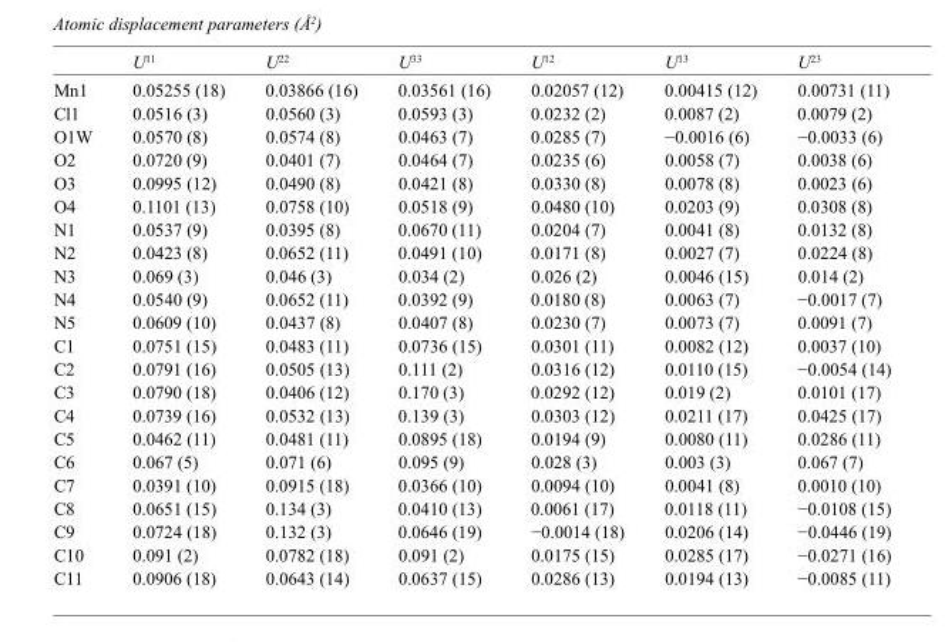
<table><thead><tr><td></td><td>U<sup>11</sup></td><td>U<sup>22</sup></td><td>U<sup>33</sup></td><td>U<sup>12</sup></td><td>U<sup>13</sup></td><td>U<sup>23</sup></td></tr></thead><tbody><tr><td>Mn1</td><td>0.05255 (18)</td><td>0.03866 (16)</td><td>0.03561 (16)</td><td>0.02057 (12)</td><td>0.00415 (12)</td><td>0.00731 (11)</td></tr><tr><td>Cl1</td><td>0.0516 (3)</td><td>0.0560 (3)</td><td>0.0593 (3)</td><td>0.0232 (2)</td><td>0.0087 (2)</td><td>0.0079 (2)</td></tr><tr><td>O1W</td><td>0.0570 (8)</td><td>0.0574 (8)</td><td>0.0463 (7)</td><td>0.0285 (7)</td><td>−0.0016 (6)</td><td>−0.0033 (6)</td></tr><tr><td>O2</td><td>0.0720 (9)</td><td>0.0401 (7)</td><td>0.0464 (7)</td><td>0.0235 (6)</td><td>0.0058 (7)</td><td>0.0038 (6)</td></tr><tr><td>O3</td><td>0.0995 (12)</td><td>0.0490 (8)</td><td>0.0421 (8)</td><td>0.0330 (8)</td><td>0.0078 (8)</td><td>0.0023 (6)</td></tr><tr><td>O4</td><td>0.1101 (13)</td><td>0.0758 (10)</td><td>0.0518 (9)</td><td>0.0480 (10)</td><td>0.0203 (9)</td><td>0.0308 (8)</td></tr><tr><td>N1</td><td>0.0537 (9)</td><td>0.0395 (8)</td><td>0.0670 (11)</td><td>0.0204 (7)</td><td>0.0041 (8)</td><td>0.0132 (8)</td></tr><tr><td>N2</td><td>0.0423 (8)</td><td>0.0652 (11)</td><td>0.0491 (10)</td><td>0.0171 (8)</td><td>0.0027 (7)</td><td>0.0224 (8)</td></tr><tr><td>N3</td><td>0.069 (3)</td><td>0.046 (3)</td><td>0.034 (2)</td><td>0.026 (2)</td><td>0.0046 (15)</td><td>0.014 (2)</td></tr><tr><td>N4</td><td>0.0540 (9)</td><td>0.0652 (11)</td><td>0.0392 (9)</td><td>0.0180 (8)</td><td>0.0063 (7)</td><td>−0.0017 (7)</td></tr><tr><td>N5</td><td>0.0609 (10)</td><td>0.0437 (8)</td><td>0.0407 (8)</td><td>0.0230 (7)</td><td>0.0073 (7)</td><td>0.0091 (7)</td></tr><tr><td>C1</td><td>0.0751 (15)</td><td>0.0483 (11)</td><td>0.0736 (15)</td><td>0.0301 (11)</td><td>0.0082 (12)</td><td>0.0037 (10)</td></tr><tr><td>C2</td><td>0.0791 (16)</td><td>0.0505 (13)</td><td>0.111 (2)</td><td>0.0316 (12)</td><td>0.0110 (15)</td><td>−0.0054 (14)</td></tr><tr><td>C3</td><td>0.0790 (18)</td><td>0.0406 (12)</td><td>0.170 (3)</td><td>0.0292 (12)</td><td>0.019 (2)</td><td>0.0101 (17)</td></tr><tr><td>C4</td><td>0.0739 (16)</td><td>0.0532 (13)</td><td>0.139 (3)</td><td>0.0303 (12)</td><td>0.0211 (17)</td><td>0.0425 (17)</td></tr><tr><td>C5</td><td>0.0462 (11)</td><td>0.0481 (11)</td><td>0.0895 (18)</td><td>0.0194 (9)</td><td>0.0080 (11)</td><td>0.0286 (11)</td></tr><tr><td>C6</td><td>0.067 (5)</td><td>0.071 (6)</td><td>0.095 (9)</td><td>0.028 (3)</td><td>0.003 (3)</td><td>0.067 (7)</td></tr><tr><td>C7</td><td>0.0391 (10)</td><td>0.0915 (18)</td><td>0.0366 (10)</td><td>0.0094 (10)</td><td>0.0041 (8)</td><td>0.0010 (10)</td></tr><tr><td>C8</td><td>0.0651 (15)</td><td>0.134 (3)</td><td>0.0410 (13)</td><td>0.0061 (17)</td><td>0.0118 (11)</td><td>−0.0108 (15)</td></tr><tr><td>C9</td><td>0.0724 (18)</td><td>0.132 (3)</td><td>0.0646 (19)</td><td>−0.0014 (18)</td><td>0.0206 (14)</td><td>−0.0446 (19)</td></tr><tr><td>C10</td><td>0.091 (2)</td><td>0.0782 (18)</td><td>0.091 (2)</td><td>0.0175 (15)</td><td>0.0285 (17)</td><td>−0.0271 (16)</td></tr><tr><td>C11</td><td>0.0906 (18)</td><td>0.0643 (14)</td><td>0.0637 (15)</td><td>0.0286 (13)</td><td>0.0194 (13)</td><td>−0.0085 (11)</td></tr></tbody></table>